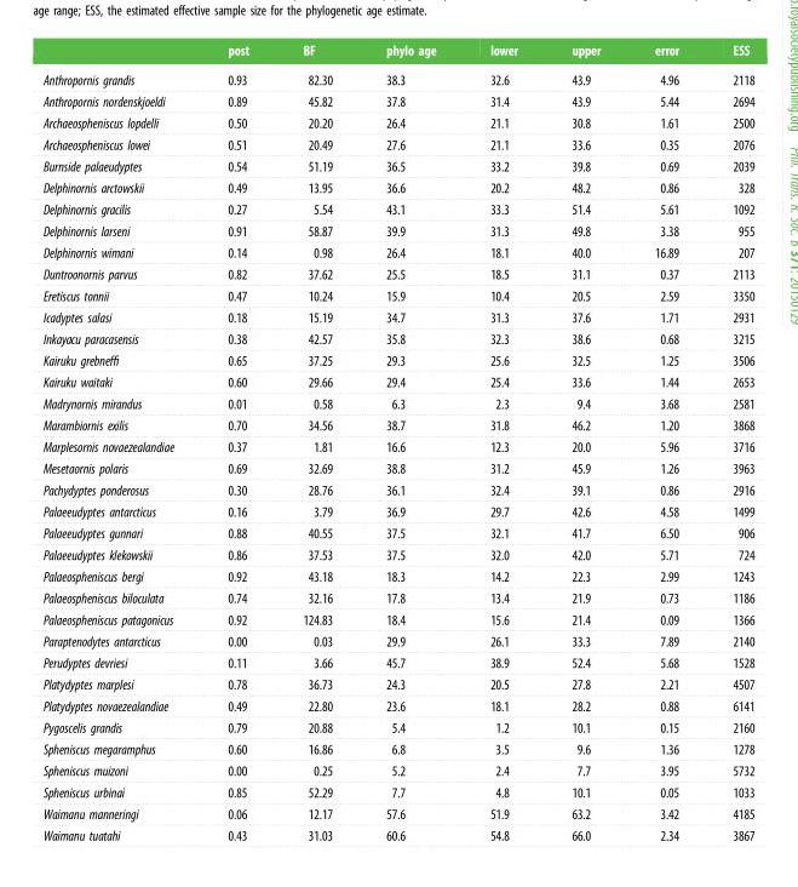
<table><thead><tr><td></td><td>post</td><td>BF</td><td>phylo age</td><td>lower</td><td>upper</td><td>error</td><td>ESS</td></tr></thead><tbody><tr><td>Anthropornis grandis</td><td>0.93</td><td>82.30</td><td>38.3</td><td>32.6</td><td>43.9</td><td>4.96</td><td>2118</td></tr><tr><td>Anthropornis nordenskjoeldi</td><td>0.89</td><td>45.82</td><td>37.8</td><td>31.4</td><td>43.9</td><td>5.44</td><td>2694</td></tr><tr><td>Archaeospheniscus lopdelli</td><td>0.50</td><td>20.20</td><td>26.4</td><td>21.1</td><td>30.8</td><td>1.61</td><td>2500</td></tr><tr><td>Archaeospheniscus lowei</td><td>0.51</td><td>20.49</td><td>27.6</td><td>21.1</td><td>33.6</td><td>0.35</td><td>2076</td></tr><tr><td>Burnside palaeudyptes</td><td>0.54</td><td>51.19</td><td>36.5</td><td>33.2</td><td>39.8</td><td>0.69</td><td>2039</td></tr><tr><td>Delphinornis arctowskii</td><td>0.49</td><td>13.95</td><td>36.6</td><td>20.2</td><td>48.2</td><td>0.86</td><td>328</td></tr><tr><td>Delphinornis gracilis</td><td>0.27</td><td>5.54</td><td>43.1</td><td>33.3</td><td>51.4</td><td>5.61</td><td>1092</td></tr><tr><td>Delphinornis larseni</td><td>0.91</td><td>58.87</td><td>39.9</td><td>31.3</td><td>49.8</td><td>3.38</td><td>955</td></tr><tr><td>Delphinornis wimani</td><td>0.14</td><td>0.98</td><td>26.4</td><td>18.1</td><td>40.0</td><td>16.89</td><td>207</td></tr><tr><td>Duntroonornis parvus</td><td>0.82</td><td>37.62</td><td>25.5</td><td>18.5</td><td>31.1</td><td>0.37</td><td>2113</td></tr><tr><td>Eretiscus tonnii</td><td>0.47</td><td>10.24</td><td>15.9</td><td>10.4</td><td>20.5</td><td>2.59</td><td>3350</td></tr><tr><td>Icadyptes salasi</td><td>0.18</td><td>15.19</td><td>34.7</td><td>31.3</td><td>37.6</td><td>1.71</td><td>2931</td></tr><tr><td>Inkayacu paracasensis</td><td>0.38</td><td>42.57</td><td>35.8</td><td>32.3</td><td>38.6</td><td>0.68</td><td>3215</td></tr><tr><td>Kairuku grebneffi</td><td>0.65</td><td>37.25</td><td>29.3</td><td>25.6</td><td>32.5</td><td>1.25</td><td>3506</td></tr><tr><td>Kairuku waitaki</td><td>0.60</td><td>29.66</td><td>29.4</td><td>25.4</td><td>33.6</td><td>1.44</td><td>2653</td></tr><tr><td>Madrynornis mirandus</td><td>0.01</td><td>0.58</td><td>6.3</td><td>2.3</td><td>9.4</td><td>3.68</td><td>2581</td></tr><tr><td>Marambiornis exilis</td><td>0.70</td><td>34.56</td><td>38.7</td><td>31.8</td><td>46.2</td><td>1.20</td><td>3868</td></tr><tr><td>Marplesornis novaezealandiae</td><td>0.37</td><td>1.81</td><td>16.6</td><td>12.3</td><td>20.0</td><td>5.96</td><td>3716</td></tr><tr><td>Mesetaornis polaris</td><td>0.69</td><td>32.69</td><td>38.8</td><td>31.2</td><td>45.9</td><td>1.26</td><td>3963</td></tr><tr><td>Pachydyptes ponderosus</td><td>0.30</td><td>28.76</td><td>36.1</td><td>32.4</td><td>39.1</td><td>0.86</td><td>2916</td></tr><tr><td>Palaeeudyptes antarcticus</td><td>0.16</td><td>3.79</td><td>36.9</td><td>29.7</td><td>42.6</td><td>4.58</td><td>1499</td></tr><tr><td>Palaeeudyptes gunnari</td><td>0.88</td><td>40.55</td><td>37.5</td><td>32.1</td><td>41.7</td><td>6.50</td><td>906</td></tr><tr><td>Palaeeudyptes klekowskii</td><td>0.86</td><td>37.53</td><td>37.5</td><td>32.0</td><td>42.0</td><td>5.71</td><td>724</td></tr><tr><td>Palaeospheniscus bergi</td><td>0.92</td><td>43.18</td><td>18.3</td><td>14.2</td><td>22.3</td><td>2.99</td><td>1243</td></tr><tr><td>Palaeospheniscus biloculata</td><td>0.74</td><td>32.16</td><td>17.8</td><td>13.4</td><td>21.9</td><td>0.73</td><td>1186</td></tr><tr><td>Palaeospheniscus patagonicus</td><td>0.92</td><td>124.83</td><td>18.4</td><td>15.6</td><td>21.4</td><td>0.09</td><td>1366</td></tr><tr><td>Paraptenodytes antarcticus</td><td>0.00</td><td>0.03</td><td>29.9</td><td>26.1</td><td>33.3</td><td>7.89</td><td>2140</td></tr><tr><td>Perudyptes devriesi</td><td>0.11</td><td>3.66</td><td>45.7</td><td>38.9</td><td>52.4</td><td>5.68</td><td>1528</td></tr><tr><td>Platydyptes marplesi</td><td>0.78</td><td>36.73</td><td>24.3</td><td>20.5</td><td>27.8</td><td>2.21</td><td>4507</td></tr><tr><td>Platydyptes novaezealandiae</td><td>0.49</td><td>22.80</td><td>23.6</td><td>18.1</td><td>28.2</td><td>0.88</td><td>6141</td></tr><tr><td>Pygoscelis grandis</td><td>0.79</td><td>20.88</td><td>5.4</td><td>1.2</td><td>10.1</td><td>0.15</td><td>2160</td></tr><tr><td>Spheniscus megaramphus</td><td>0.60</td><td>16.86</td><td>6.8</td><td>3.5</td><td>9.6</td><td>1.36</td><td>1278</td></tr><tr><td>Spheniscus muizoni</td><td>0.00</td><td>0.25</td><td>5.2</td><td>2.4</td><td>7.7</td><td>3.95</td><td>5732</td></tr><tr><td>Spheniscus urbinai</td><td>0.85</td><td>52.29</td><td>7.7</td><td>4.8</td><td>10.1</td><td>0.05</td><td>1033</td></tr><tr><td>Waimanu manneringi</td><td>0.06</td><td>12.17</td><td>57.6</td><td>51.9</td><td>63.2</td><td>3.42</td><td>4185</td></tr><tr><td>Waimanu tuatahi</td><td>0.43</td><td>31.03</td><td>60.6</td><td>54.8</td><td>66.0</td><td>2.34</td><td>3867</td></tr></tbody></table>